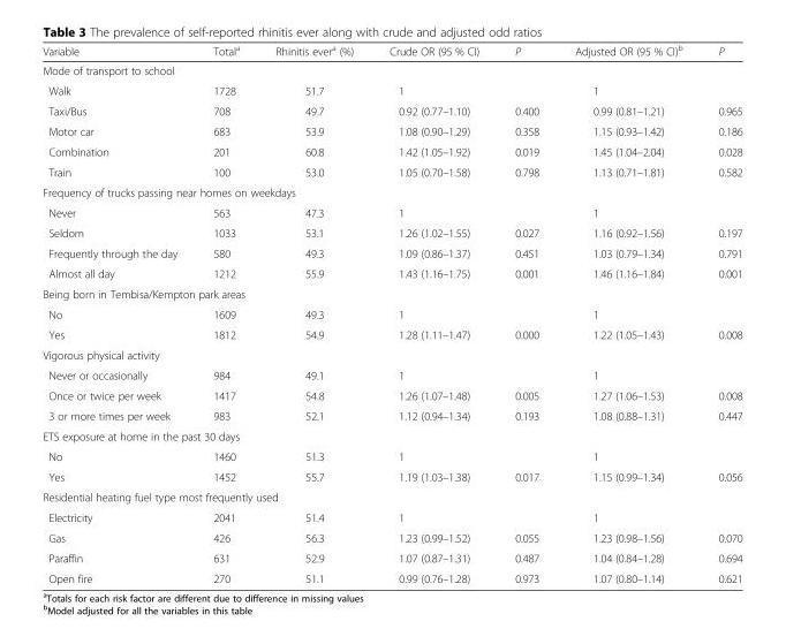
<table><thead><tr><td>Variable</td><td>Total<sup>a</sup></td><td>Rhinitis ever<sup>a</sup> (%)</td><td>Crude OR (95 % CI)</td><td>P</td><td>Adjusted OR (95 % CI)<sup>b</sup></td><td>P</td></tr></thead><tbody><tr><td colspan="7">Mode of transport to school</td></tr><tr><td>Walk</td><td>1728</td><td>51.7</td><td>1</td><td></td><td>1</td><td></td></tr><tr><td>Taxi/Bus</td><td>708</td><td>49.7</td><td>0.92 (0.77–1.10)</td><td>0.400</td><td>0.99 (0.81–1.21)</td><td>0.965</td></tr><tr><td>Motor car</td><td>683</td><td>53.9</td><td>1.08 (0.90–1.29)</td><td>0.358</td><td>1.15 (0.93–1.42)</td><td>0.186</td></tr><tr><td>Combination</td><td>201</td><td>60.8</td><td>1.42 (1.05–1.92)</td><td>0.019</td><td>1.45 (1.04–2.04)</td><td>0.028</td></tr><tr><td>Train</td><td>100</td><td>53.0</td><td>1.05 (0.70–1.58)</td><td>0.798</td><td>1.13 (0.71–1.81)</td><td>0.582</td></tr><tr><td colspan="7">Frequency of trucks passing near homes on weekdays</td></tr><tr><td>Never</td><td>563</td><td>47.3</td><td>1</td><td></td><td>1</td><td></td></tr><tr><td>Seldom</td><td>1033</td><td>53.1</td><td>1.26 (1.02–1.55)</td><td>0.027</td><td>1.16 (0.92–1.56)</td><td>0.197</td></tr><tr><td>Frequently through the day</td><td>580</td><td>49.3</td><td>1.09 (0.86–1.37)</td><td>0.451</td><td>1.03 (0.79–1.34)</td><td>0.791</td></tr><tr><td>Almost all day</td><td>1212</td><td>55.9</td><td>1.43 (1.16–1.75)</td><td>0.001</td><td>1.46 (1.16–1.84)</td><td>0.001</td></tr><tr><td colspan="7">Being born in Tembisa/Kempton park areas</td></tr><tr><td>No</td><td>1609</td><td>49.3</td><td>1</td><td></td><td>1</td><td></td></tr><tr><td>Yes</td><td>1812</td><td>54.9</td><td>1.28 (1.11–1.47)</td><td>0.000</td><td>1.22 (1.05–1.43)</td><td>0.008</td></tr><tr><td colspan="7">Vigorous physical activity</td></tr><tr><td>Never or occasionally</td><td>984</td><td>49.1</td><td>1</td><td></td><td>1</td><td></td></tr><tr><td>Once or twice per week</td><td>1417</td><td>54.8</td><td>1.26 (1.07–1.48)</td><td>0.005</td><td>1.27 (1.06–1.53)</td><td>0.008</td></tr><tr><td>3 or more times per week</td><td>983</td><td>52.1</td><td>1.12 (0.94–1.34)</td><td>0.193</td><td>1.08 (0.88–1.31)</td><td>0.447</td></tr><tr><td colspan="7">ETS exposure at home in the past 30 days</td></tr><tr><td>No</td><td>1460</td><td>51.3</td><td>1</td><td></td><td>1</td><td></td></tr><tr><td>Yes</td><td>1452</td><td>55.7</td><td>1.19 (1.03–1.38)</td><td>0.017</td><td>1.15 (0.99–1.34)</td><td>0.056</td></tr><tr><td colspan="7">Residential heating fuel type most frequently used</td></tr><tr><td>Electricity</td><td>2041</td><td>51.4</td><td>1</td><td></td><td>1</td><td></td></tr><tr><td>Gas</td><td>426</td><td>56.3</td><td>1.23 (0.99–1.52)</td><td>0.055</td><td>1.23 (0.98–1.56)</td><td>0.070</td></tr><tr><td>Paraffin</td><td>631</td><td>52.9</td><td>1.07 (0.87–1.31)</td><td>0.487</td><td>1.04 (0.84–1.28)</td><td>0.694</td></tr><tr><td>Open fire</td><td>270</td><td>51.1</td><td>0.99 (0.76–1.28)</td><td>0.973</td><td>1.07 (0.80–1.14)</td><td>0.621</td></tr></tbody></table>